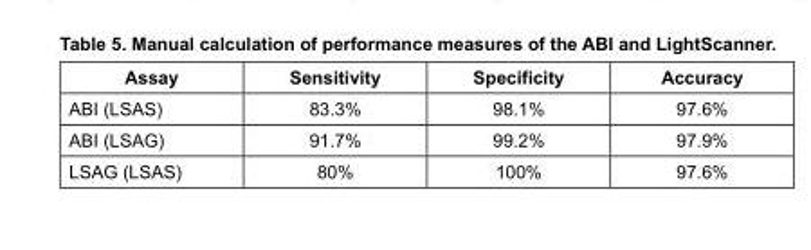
<table><thead><tr><td>Assay</td><td>Sensitivity</td><td>Specificity</td><td>Accuracy</td></tr></thead><tbody><tr><td>ABI (LSAS)</td><td>83.3%</td><td>98.1%</td><td>97.6%</td></tr><tr><td>ABI (LSAG)</td><td>91.7%</td><td>99.2%</td><td>97.9%</td></tr><tr><td>LSAG (LSAS)</td><td>80%</td><td>100%</td><td>97.6%</td></tr></tbody></table>